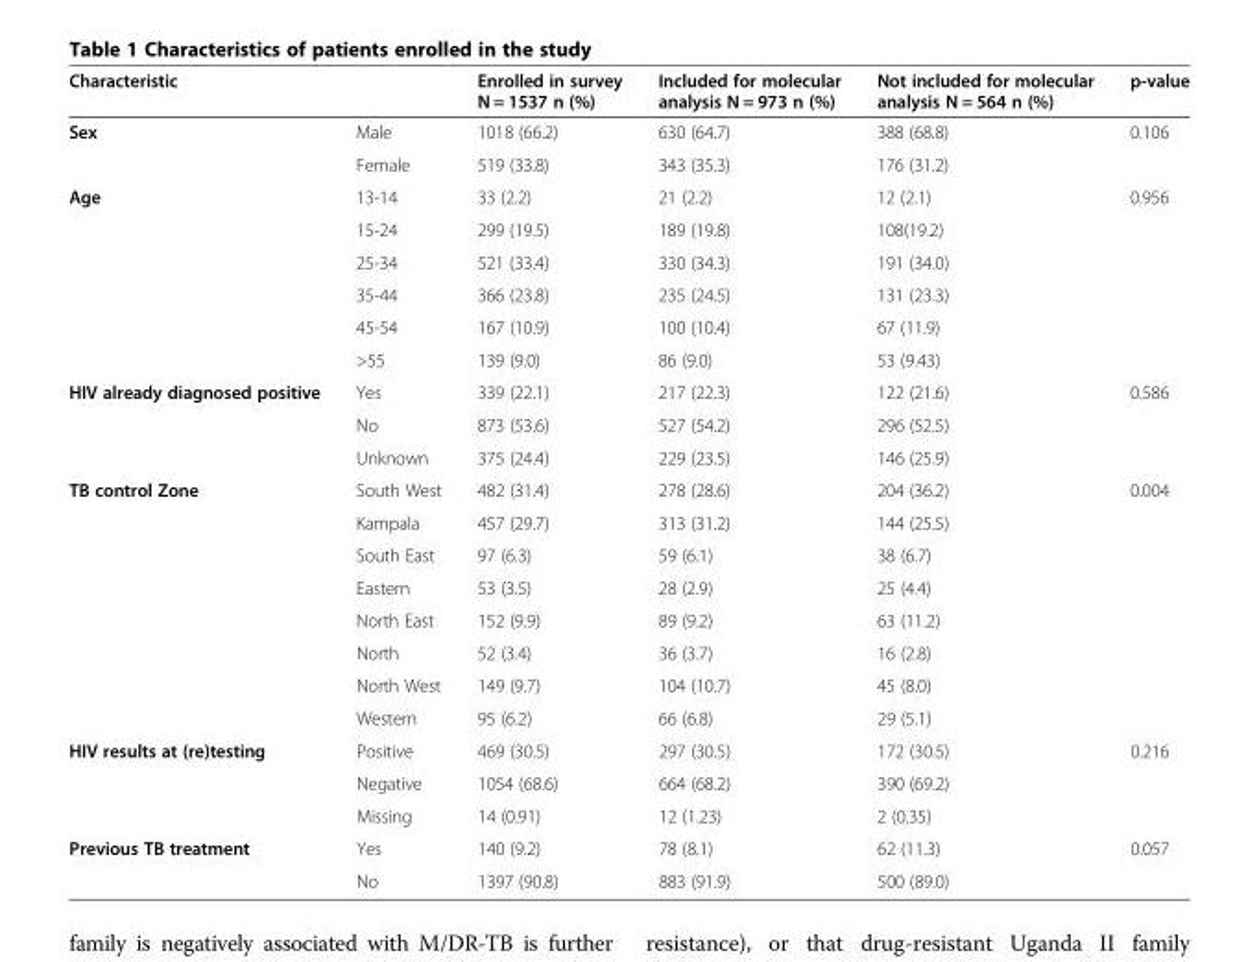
<table><thead><tr><td>Characteristic</td><td></td><td>Enrolled in survey N = 1537 n (%)</td><td>Included for molecular analysis N = 973 n (%)</td><td>Not included for molecular analysis N = 564 n (%)</td><td>p-value</td></tr></thead><tbody><tr><td rowspan="2">Sex</td><td>Male</td><td>1018 (66.2)</td><td>630 (64.7)</td><td>388 (68.8)</td><td>0.106</td></tr><tr><td>Female</td><td>519 (33.8)</td><td>343 (35.3)</td><td>176 (31.2)</td><td></td></tr><tr><td rowspan="6">Age</td><td>13-14</td><td>33 (2.2)</td><td>21 (2.2)</td><td>12 (2.1)</td><td>0.956</td></tr><tr><td>15-24</td><td>299 (19.5)</td><td>189 (19.8)</td><td>108(19.2)</td><td></td></tr><tr><td>25-34</td><td>521 (33.4)</td><td>330 (34.3)</td><td>191 (34.0)</td><td></td></tr><tr><td>35-44</td><td>366 (23.8)</td><td>235 (24.5)</td><td>131 (23.3)</td><td></td></tr><tr><td>45-54</td><td>167 (10.9)</td><td>100 (10.4)</td><td>67 (11.9)</td><td></td></tr><tr><td>&gt;55</td><td>139 (9.0)</td><td>86 (9.0)</td><td>53 (9.43)</td><td></td></tr><tr><td rowspan="3">HIV already diagnosed positive</td><td>Yes</td><td>339 (22.1)</td><td>217 (22.3)</td><td>122 (21.6)</td><td>0.586</td></tr><tr><td>No</td><td>873 (53.6)</td><td>527 (54.2)</td><td>296 (52.5)</td><td></td></tr><tr><td>Unknown</td><td>375 (24.4)</td><td>229 (23.5)</td><td>146 (25.9)</td><td></td></tr><tr><td rowspan="8">TB control Zone</td><td>South West</td><td>482 (31.4)</td><td>278 (28.6)</td><td>204 (36.2)</td><td>0.004</td></tr><tr><td>Kampala</td><td>457 (29.7)</td><td>313 (31.2)</td><td>144 (25.5)</td><td></td></tr><tr><td>South East</td><td>97 (6.3)</td><td>59 (6.1)</td><td>38 (6.7)</td><td></td></tr><tr><td>Eastern</td><td>53 (3.5)</td><td>28 (2.9)</td><td>25 (4.4)</td><td></td></tr><tr><td>North East</td><td>152 (9.9)</td><td>89 (9.2)</td><td>63 (11.2)</td><td></td></tr><tr><td>North</td><td>52 (3.4)</td><td>36 (3.7)</td><td>16 (2.8)</td><td></td></tr><tr><td>North West</td><td>149 (9.7)</td><td>104 (10.7)</td><td>45 (8.0)</td><td></td></tr><tr><td>Western</td><td>95 (6.2)</td><td>66 (6.8)</td><td>29 (5.1)</td><td></td></tr><tr><td rowspan="3">HIV results at (re)testing</td><td>Positive</td><td>469 (30.5)</td><td>297 (30.5)</td><td>172 (30.5)</td><td>0.216</td></tr><tr><td>Negative</td><td>1054 (68.6)</td><td>664 (68.2)</td><td>390 (69.2)</td><td></td></tr><tr><td>Missing</td><td>14 (0.91)</td><td>12 (1.23)</td><td>2 (0.35)</td><td></td></tr><tr><td rowspan="2">Previous TB treatment</td><td>Yes</td><td>140 (9.2)</td><td>78 (8.1)</td><td>62 (11.3)</td><td>0.057</td></tr><tr><td>No</td><td>1397 (90.8)</td><td>883 (91.9)</td><td>500 (89.0)</td><td></td></tr></tbody></table>